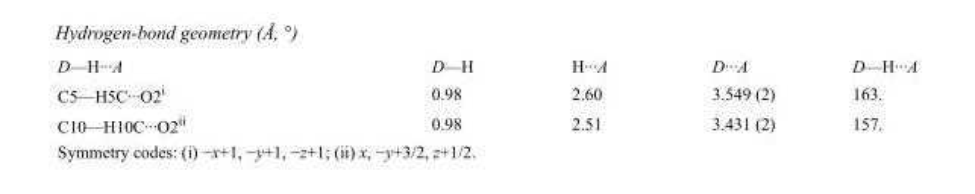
<table><tbody><tr><td>D—H···A</td><td>D—H</td><td>H···A</td><td>D···A</td><td>D—H···A</td></tr><tr><td>C5—H5C···O2<sup>i</sup></td><td>0.98</td><td>2.60</td><td>3.549 (2)</td><td>163.</td></tr><tr><td>C10—H10C···O2<sup>ii</sup></td><td>0.98</td><td>2.51</td><td>3.431 (2)</td><td>157.</td></tr></tbody></table>